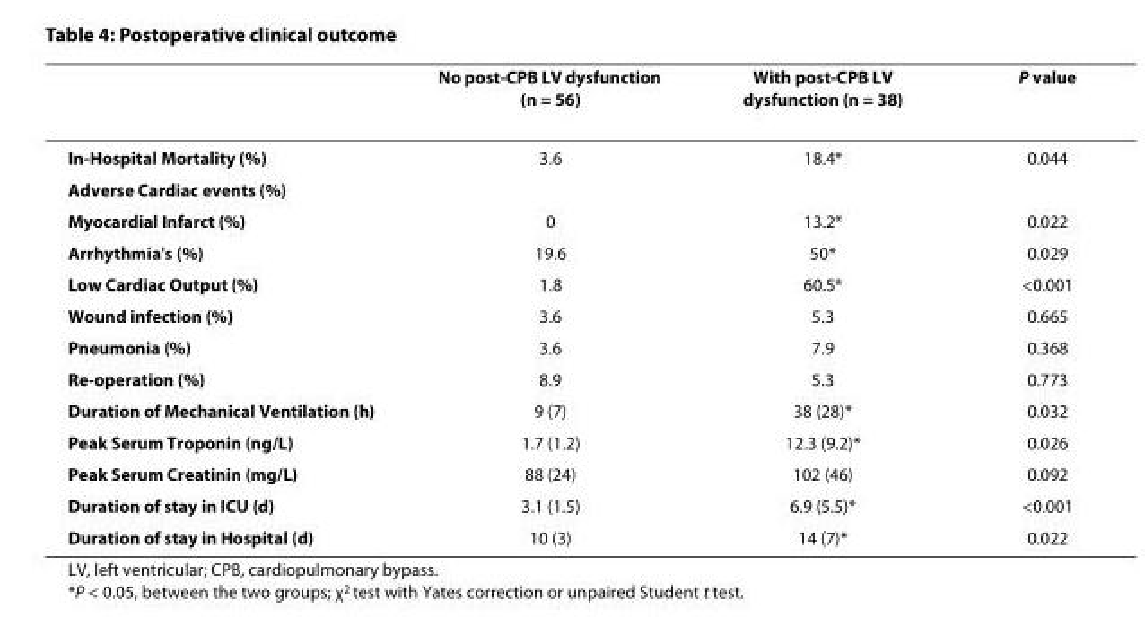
<table><thead><tr><td></td><td>No post-CPB LV dysfunction (n = 56)</td><td>With post-CPB LV dysfunction (n = 38)</td><td>P value</td></tr></thead><tbody><tr><td>In-Hospital Mortality (%)</td><td>3.6</td><td>18.4*</td><td>0.044</td></tr><tr><td colspan="4">Adverse Cardiac events (%)</td></tr><tr><td>Myocardial Infarct (%)</td><td>0</td><td>13.2*</td><td>0.022</td></tr><tr><td>Arrhythmia&#x27;s (%)</td><td>19.6</td><td>50*</td><td>0.029</td></tr><tr><td>Low Cardiac Output (%)</td><td>1.8</td><td>60.5*</td><td>&lt;0.001</td></tr><tr><td>Wound infection (%)</td><td>3.6</td><td>5.3</td><td>0.665</td></tr><tr><td>Pneumonia (%)</td><td>3.6</td><td>7.9</td><td>0.368</td></tr><tr><td>Re-operation (%)</td><td>8.9</td><td>5.3</td><td>0.773</td></tr><tr><td>Duration of Mechanical Ventilation (h)</td><td>9 (7)</td><td>38 (28)*</td><td>0.032</td></tr><tr><td>Peak Serum Troponin (ng/L)</td><td>1.7 (1.2)</td><td>12.3 (9.2)*</td><td>0.026</td></tr><tr><td>Peak Serum Creatinin (mg/L)</td><td>88 (24)</td><td>102 (46)</td><td>0.092</td></tr><tr><td>Duration of stay in ICU (d)</td><td>3.1 (1.5)</td><td>6.9 (5.5)*</td><td>&lt;0.001</td></tr><tr><td>Duration of stay in Hospital (d)</td><td>10 (3)</td><td>14 (7)*</td><td>0.022</td></tr></tbody></table>